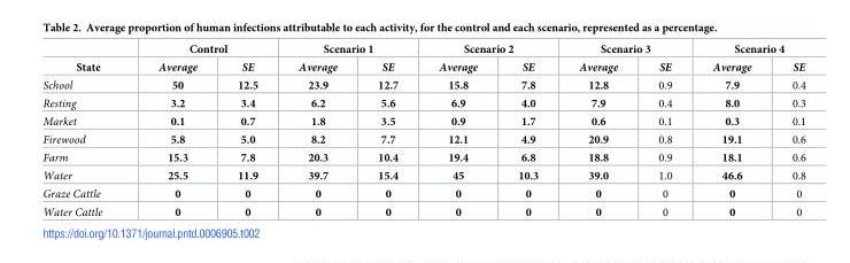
<table><thead><tr><td rowspan="2">State</td><td colspan="2">Control</td><td colspan="2">Scenario 1</td><td colspan="2">Scenario 2</td><td colspan="2">Scenario 3</td><td colspan="2">Scenario 4</td></tr><tr><td>Average</td><td>SE</td><td>Average</td><td>SE</td><td>Average</td><td>SE</td><td>Average</td><td>SE</td><td>Average</td><td>SE</td></tr></thead><tbody><tr><td>School</td><td>50</td><td>12.5</td><td>23.9</td><td>12.7</td><td>15.8</td><td>7.8</td><td>12.8</td><td>0.9</td><td>7.9</td><td>0.4</td></tr><tr><td>Resting</td><td>3.2</td><td>3.4</td><td>6.2</td><td>5.6</td><td>6.9</td><td>4.0</td><td>7.9</td><td>0.4</td><td>8.0</td><td>0.3</td></tr><tr><td>Market</td><td>0.1</td><td>0.7</td><td>1.8</td><td>3.5</td><td>0.9</td><td>1.7</td><td>0.6</td><td>0.1</td><td>0.3</td><td>0.1</td></tr><tr><td>Firewood</td><td>5.8</td><td>5.0</td><td>8.2</td><td>7.7</td><td>12.1</td><td>4.9</td><td>20.9</td><td>0.8</td><td>19.1</td><td>0.6</td></tr><tr><td>Farm</td><td>15.3</td><td>7.8</td><td>20.3</td><td>10.4</td><td>19.4</td><td>6.8</td><td>18.8</td><td>0.9</td><td>18.1</td><td>0.6</td></tr><tr><td>Water</td><td>25.5</td><td>11.9</td><td>39.7</td><td>15.4</td><td>45</td><td>10.3</td><td>39.0</td><td>1.0</td><td>46.6</td><td>0.8</td></tr><tr><td>Graze Cattle</td><td>0</td><td>0</td><td>0</td><td>0</td><td>0</td><td>0</td><td>0</td><td>0</td><td>0</td><td>0</td></tr><tr><td>Water Cattle</td><td>0</td><td>0</td><td>0</td><td>0</td><td>0</td><td>0</td><td>0</td><td>0</td><td>0</td><td>0</td></tr></tbody></table>